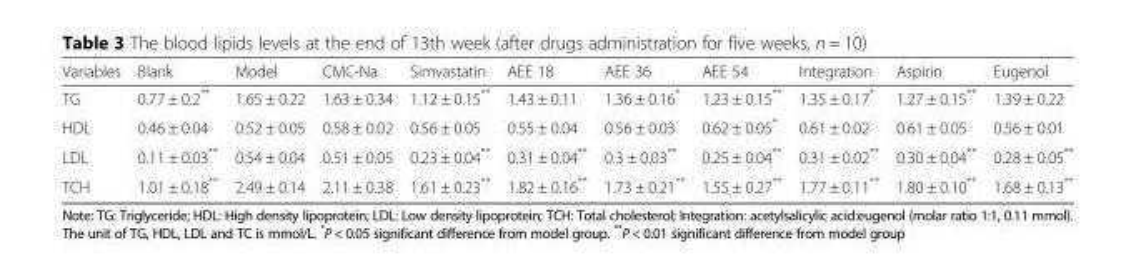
<table><thead><tr><td>Variables</td><td>Blank</td><td>Model</td><td>CMC-Na</td><td>Simvastatin</td><td>AEE 18</td><td>AEE 36</td><td>AEE 54</td><td>Integration</td><td>Aspirin</td><td>Eugenol</td></tr></thead><tbody><tr><td>TG</td><td>0.77 ± 0.2**</td><td>1.65 ± 0.22</td><td>1.63 ± 0.34</td><td>1.12 ± 0.15**</td><td>1.43 ± 0.11</td><td>1.36 ± 0.16*</td><td>1.23 ± 0.15**</td><td>1.35 ± 0.17*</td><td>1.27 ± 0.15**</td><td>1.39 ± 0.22</td></tr><tr><td>HDL</td><td>0.46 ± 0.04</td><td>0.52 ± 0.05</td><td>0.58 ± 0.02</td><td>0.56 ± 0.05</td><td>0.55 ± 0.04</td><td>0.56 ± 0.03</td><td>0.62 ± 0.05*</td><td>0.61 ± 0.02</td><td>0.61 ± 0.05</td><td>0.56 ± 0.01</td></tr><tr><td>LDL</td><td>0.11 ± 0.03**</td><td>0.54 ± 0.04</td><td>0.51 ± 0.05</td><td>0.23 ± 0.04**</td><td>0.31 ± 0.04**</td><td>0.3 ± 0.03**</td><td>0.25 ± 0.04**</td><td>0.31 ± 0.02**</td><td>0.30 ± 0.04**</td><td>0.28 ± 0.05**</td></tr><tr><td>TCH</td><td>1.01 ± 0.18**</td><td>2.49 ± 0.14</td><td>2.11 ± 0.38</td><td>1.61 ± 0.23**</td><td>1.82 ± 0.16**</td><td>1.73 ± 0.21**</td><td>1.55 ± 0.27**</td><td>1.77 ± 0.11**</td><td>1.80 ± 0.10**</td><td>1.68 ± 0.13**</td></tr></tbody></table>